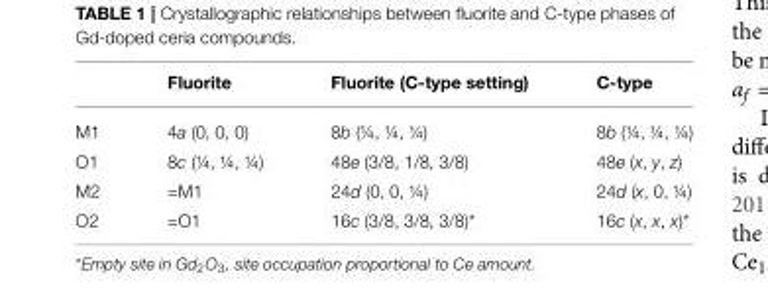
<table><thead><tr><td></td><td>Fluorite</td><td>Fluorite (C-type setting)</td><td>C-type</td></tr></thead><tbody><tr><td>M1</td><td>4a (0, 0, 0)</td><td>8b (¼, ¼, ¼)</td><td>8b (¼, ¼, ¼)</td></tr><tr><td>O1</td><td>8c (¼, ¼, ¼)</td><td>48e (3/8, 1/8, 3/8)</td><td>48e (x, y, z)</td></tr><tr><td>M2</td><td>=M1</td><td>24d (0, 0, ¼)</td><td>24d (x, 0, ¼)</td></tr><tr><td>O2</td><td>=O1</td><td>16c (3/8, 3/8, 3/8)*</td><td>16c (x, x, x)*</td></tr></tbody></table>